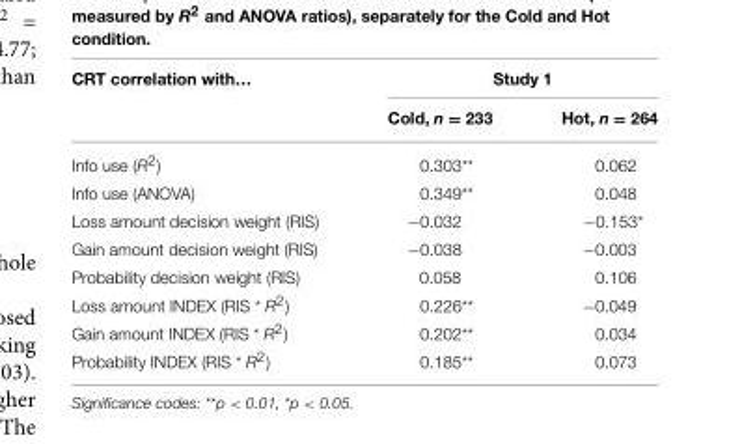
<table><thead><tr><td rowspan="2">CRT correlation with…</td><td colspan="2">Study 1</td></tr><tr><td>Cold, n = 233</td><td>Hot, n = 264</td></tr></thead><tbody><tr><td>Info use (R<sup>2</sup>)</td><td>0.303**</td><td>0.062</td></tr><tr><td>Info use (ANOVA)</td><td>0.349**</td><td>0.048</td></tr><tr><td>Loss amount decision weight (RIS)</td><td>−0.032</td><td>−0.153*</td></tr><tr><td>Gain amount decision weight (RIS)</td><td>−0.038</td><td>−0.003</td></tr><tr><td>Probability decision weight (RIS)</td><td>0.058</td><td>0.106</td></tr><tr><td>Loss amount INDEX (RIS * R<sup>2</sup>)</td><td>0.226**</td><td>−0.049</td></tr><tr><td>Gain amount INDEX (RIS * R<sup>2</sup>)</td><td>0.202**</td><td>0.034</td></tr><tr><td>Probability INDEX (RIS * R<sup>2</sup>)</td><td>0.185**</td><td>0.073</td></tr></tbody></table>